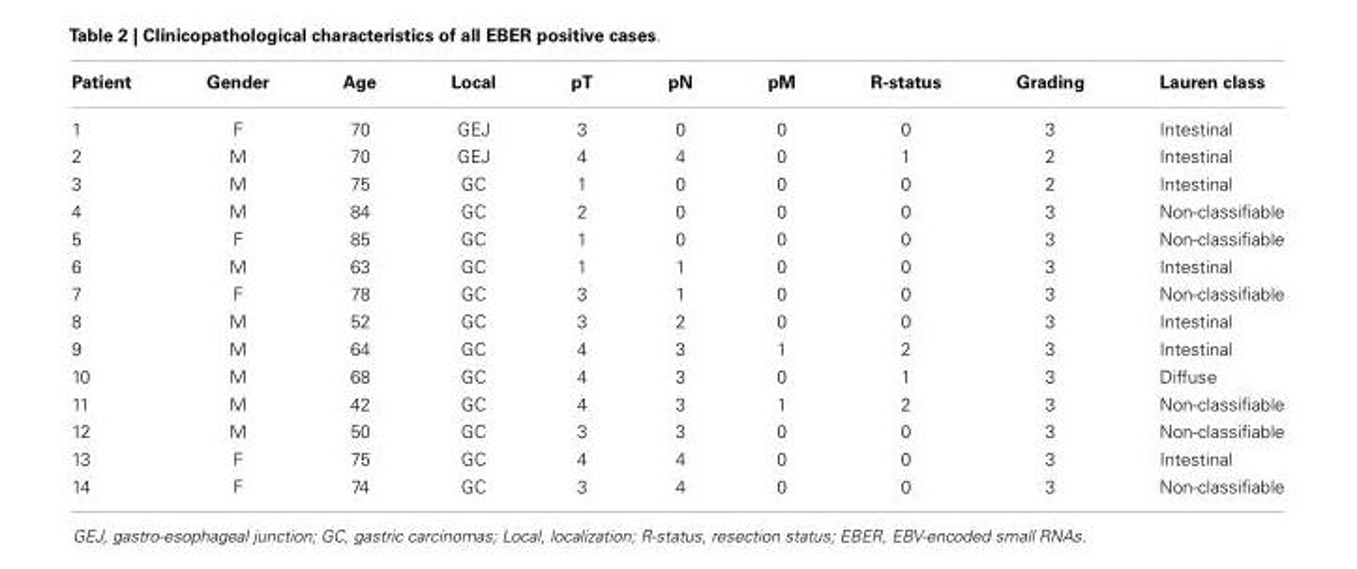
<table><thead><tr><td>Patient</td><td>Gender</td><td>Age</td><td>Local</td><td>pT</td><td>pN</td><td>pM</td><td>R-status</td><td>Grading</td><td>Lauren class</td></tr></thead><tbody><tr><td>1</td><td>F</td><td>70</td><td>GEJ</td><td>3</td><td>0</td><td>0</td><td>0</td><td>3</td><td>Intestinal</td></tr><tr><td>2</td><td>M</td><td>70</td><td>GEJ</td><td>4</td><td>4</td><td>0</td><td>1</td><td>2</td><td>Intestinal</td></tr><tr><td>3</td><td>M</td><td>75</td><td>GC</td><td>1</td><td>0</td><td>0</td><td>0</td><td>2</td><td>Intestinal</td></tr><tr><td>4</td><td>M</td><td>84</td><td>GC</td><td>2</td><td>0</td><td>0</td><td>0</td><td>3</td><td>Non-classifiable</td></tr><tr><td>5</td><td>F</td><td>85</td><td>GC</td><td>1</td><td>0</td><td>0</td><td>0</td><td>3</td><td>Non-classifiable</td></tr><tr><td>6</td><td>M</td><td>63</td><td>GC</td><td>1</td><td>1</td><td>0</td><td>0</td><td>3</td><td>Intestinal</td></tr><tr><td>7</td><td>F</td><td>78</td><td>GC</td><td>3</td><td>1</td><td>0</td><td>0</td><td>3</td><td>Non-classifiable</td></tr><tr><td>8</td><td>M</td><td>52</td><td>GC</td><td>3</td><td>2</td><td>0</td><td>0</td><td>3</td><td>Intestinal</td></tr><tr><td>9</td><td>M</td><td>64</td><td>GC</td><td>4</td><td>3</td><td>1</td><td>2</td><td>3</td><td>Intestinal</td></tr><tr><td>10</td><td>M</td><td>68</td><td>GC</td><td>4</td><td>3</td><td>0</td><td>1</td><td>3</td><td>Diffuse</td></tr><tr><td>11</td><td>M</td><td>42</td><td>GC</td><td>4</td><td>3</td><td>1</td><td>2</td><td>3</td><td>Non-classifiable</td></tr><tr><td>12</td><td>M</td><td>50</td><td>GC</td><td>3</td><td>3</td><td>0</td><td>0</td><td>3</td><td>Non-classifiable</td></tr><tr><td>13</td><td>F</td><td>75</td><td>GC</td><td>4</td><td>4</td><td>0</td><td>0</td><td>3</td><td>Intestinal</td></tr><tr><td>14</td><td>F</td><td>74</td><td>GC</td><td>3</td><td>4</td><td>0</td><td>0</td><td>3</td><td>Non-classifiable</td></tr></tbody></table>